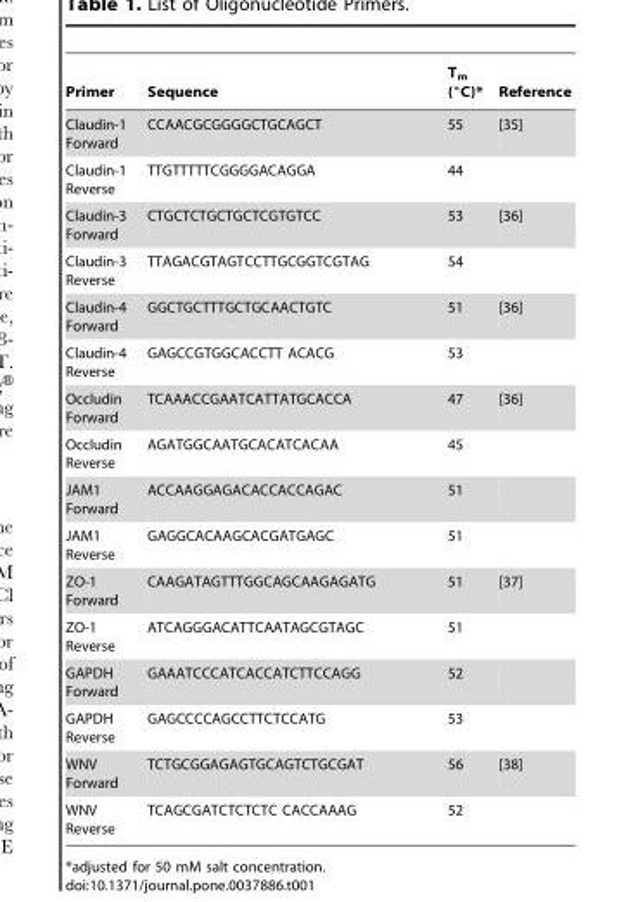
<table><thead><tr><td>Primer</td><td>Sequence</td><td>T<sub>m</sub> (°C)*</td><td>Reference</td></tr></thead><tbody><tr><td>Claudin-1 Forward</td><td>CCAACGCGGGGCTGCAGCT</td><td>55</td><td>[35]</td></tr><tr><td>Claudin-1 Reverse</td><td>TTGTTTTTCGGGGACAGGA</td><td>44</td><td></td></tr><tr><td>Claudin-3 Forward</td><td>CTGCTCTGCTGCTCGTGTCC</td><td>53</td><td>[36]</td></tr><tr><td>Claudin-3 Reverse</td><td>TTAGACGTAGTCCTTGCGGTCGTAG</td><td>54</td><td></td></tr><tr><td>Claudin-4 Forward</td><td>GGCTGCTTTGCTGCAACTGTC</td><td>51</td><td>[36]</td></tr><tr><td>Claudin-4 Reverse</td><td>GAGCCGTGGCACCTT ACACG</td><td>53</td><td></td></tr><tr><td>Occludin Forward</td><td>TCAAACCGAATCATTATGCACCA</td><td>47</td><td>[36]</td></tr><tr><td>Occludin Reverse</td><td>AGATGGCAATGCACATCACAA</td><td>45</td><td></td></tr><tr><td>JAM1 Forward</td><td>ACCAAGGAGACACCACCAGAC</td><td>51</td><td></td></tr><tr><td>JAM1 Reverse</td><td>GAGGCACAAGCACGATGAGC</td><td>51</td><td></td></tr><tr><td>ZO-1 Forward</td><td>CAAGATAGTTTGGCAGCAAGAGATG</td><td>51</td><td>[37]</td></tr><tr><td>ZO-1 Reverse</td><td>ATCAGGGACATTCAATAGCGTAGC</td><td>51</td><td></td></tr><tr><td>GAPDH Forward</td><td>GAAATCCCATCACCATCTTCCAGG</td><td>52</td><td></td></tr><tr><td>GAPDH Reverse</td><td>GAGCCCCAGCCTTCTCCATG</td><td>53</td><td></td></tr><tr><td>WNV Forward</td><td>TCTGCGGAGAGTGCAGTCTGCGAT</td><td>56</td><td>[38]</td></tr><tr><td>WNV Reverse</td><td>TCAGCGATCTCTCTC CACCAAAG</td><td>52</td><td></td></tr></tbody></table>